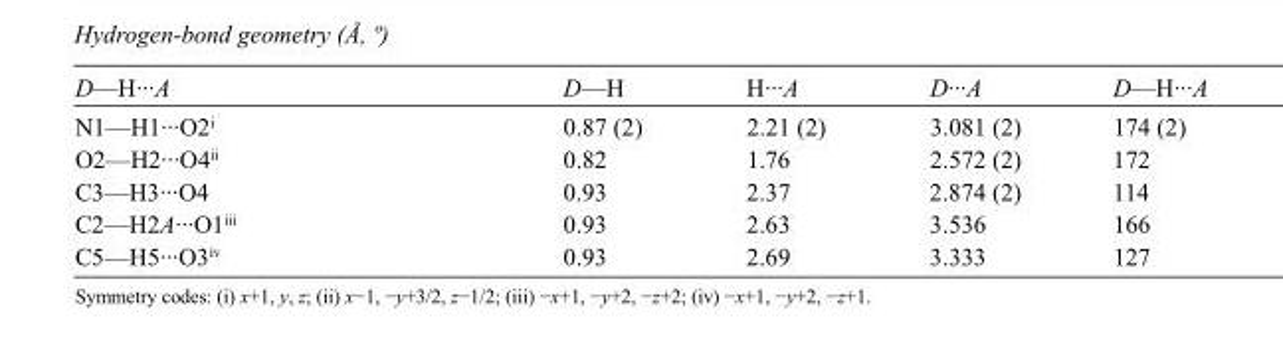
<table><tbody><tr><td>D—H···A</td><td>D—H</td><td>H···A</td><td>D···A</td><td>D—H···A</td></tr><tr><td>N1—H1···O2<sup>i</sup></td><td>0.87 (2)</td><td>2.21 (2)</td><td>3.081 (2)</td><td>174 (2)</td></tr><tr><td>O2—H2···O4<sup>ii</sup></td><td>0.82</td><td>1.76</td><td>2.572 (2)</td><td>172</td></tr><tr><td>C3—H3···O4</td><td>0.93</td><td>2.37</td><td>2.874 (2)</td><td>114</td></tr><tr><td>C2—H2A···O1<sup>iii</sup></td><td>0.93</td><td>2.63</td><td>3.536</td><td>166</td></tr><tr><td>C5—H5···O3<sup>iv</sup></td><td>0.93</td><td>2.69</td><td>3.333</td><td>127</td></tr></tbody></table>